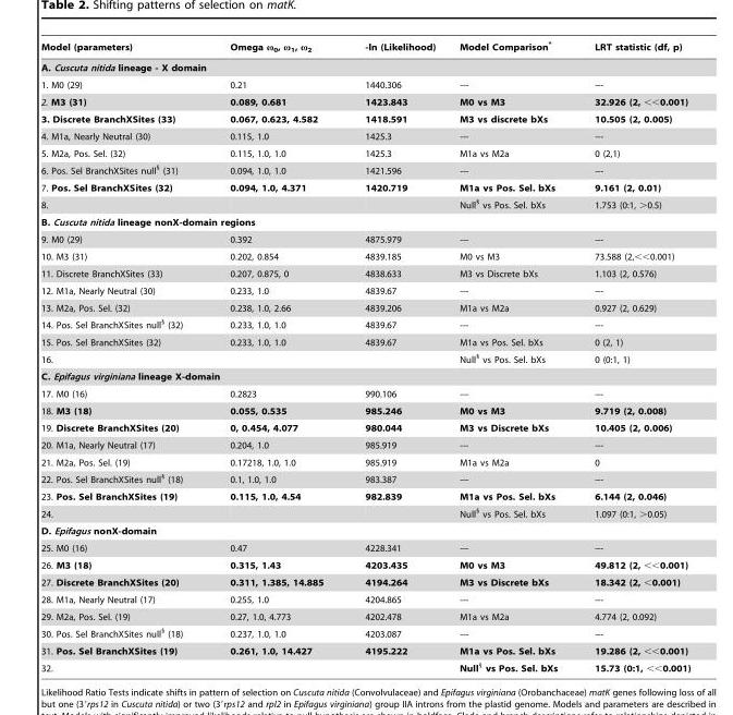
<table><thead><tr><td>Model (parameters)</td><td>Omega ω<sub>0</sub>, ω<sub>1</sub>, ω<sub>2</sub></td><td>-ln (Likelihood)</td><td>Model Comparison*</td><td>LRT statistic (df, p)</td></tr></thead><tbody><tr><td colspan="5">A. Cuscuta nitida lineage - X domain</td></tr><tr><td>1. M0 (29)</td><td>0.21</td><td>1440.306</td><td>---</td><td>---</td></tr><tr><td>2. M3 (31)</td><td>0.089, 0.681</td><td>1423.843</td><td>M0 vs M3</td><td>32.926 (2, &lt;&lt;0.001)</td></tr><tr><td>3. Discrete BranchXSites (33)</td><td>0.067, 0.623, 4.582</td><td>1418.591</td><td>M3 vs discrete bXs</td><td>10.505 (2, 0.005)</td></tr><tr><td>4. M1a, Nearly Neutral (30)</td><td>0.115, 1.0</td><td>1425.3</td><td>---</td><td>---</td></tr><tr><td>5. M2a, Pos. Sel. (32)</td><td>0.115, 1.0, 1.0</td><td>1425.3</td><td>M1a vs M2a</td><td>0 (2,1)</td></tr><tr><td>6. Pos. Sel BranchXSites null§ (31)</td><td>0.094, 1.0, 1.0</td><td>1421.596</td><td>---</td><td>---</td></tr><tr><td>7. Pos. Sel BranchXSites (32)</td><td>0.094, 1.0, 4.371</td><td>1420.719</td><td>M1a vs Pos. Sel. bXs</td><td>9.161 (2, 0.01)</td></tr><tr><td>8.</td><td></td><td></td><td>Null§ vs Pos. Sel. bXs</td><td>1.753 (0:1, &gt;0.5)</td></tr><tr><td colspan="5">B. Cuscuta nitida lineage nonX-domain regions</td></tr><tr><td>9. M0 (29)</td><td>0.392</td><td>4875.979</td><td>---</td><td>---</td></tr><tr><td>10. M3 (31)</td><td>0.202, 0.854</td><td>4839.185</td><td>M0 vs M3</td><td>73.588 (2,&lt;&lt;0.001)</td></tr><tr><td>11. Discrete BranchXSites (33)</td><td>0.207, 0.875, 0</td><td>4838.633</td><td>M3 vs Discrete bXs</td><td>1.103 (2, 0.576)</td></tr><tr><td>12. M1a, Nearly Neutral (30)</td><td>0.233, 1.0</td><td>4839.67</td><td>---</td><td>---</td></tr><tr><td>13. M2a, Pos. Sel. (32)</td><td>0.238, 1.0, 2.66</td><td>4839.206</td><td>M1a vs M2a</td><td>0.927 (2, 0.629)</td></tr><tr><td>14. Pos. Sel BranchXSites null§ (32)</td><td>0.233, 1.0, 1.0</td><td>4839.67</td><td>---</td><td>---</td></tr><tr><td>15. Pos. Sel BranchXSites (32)</td><td>0.233, 1.0, 1.0</td><td>4839.67</td><td>M1a vs Pos. Sel. bXs</td><td>0 (2, 1)</td></tr><tr><td>16.</td><td></td><td></td><td>Null§ vs Pos. Sel. bXs</td><td>0 (0:1, 1)</td></tr><tr><td colspan="5">C. Epifagus virginiana lineage X-domain</td></tr><tr><td>17. M0 (16)</td><td>0.2823</td><td>990.106</td><td>---</td><td>---</td></tr><tr><td>18. M3 (18)</td><td>0.055, 0.535</td><td>985.246</td><td>M0 vs M3</td><td>9.719 (2, 0.008)</td></tr><tr><td>19. Discrete BranchXSites (20)</td><td>0, 0.454, 4.077</td><td>980.044</td><td>M3 vs Discrete bXs</td><td>10.405 (2, 0.006)</td></tr><tr><td>20. M1a, Nearly Neutral (17)</td><td>0.204, 1.0</td><td>985.919</td><td>---</td><td>---</td></tr><tr><td>21. M2a, Pos. Sel. (19)</td><td>0.17218, 1.0, 1.0</td><td>985.919</td><td>M1a vs M2a</td><td>0</td></tr><tr><td>22. Pos. Sel BranchXSites null§ (18)</td><td>0.1, 1.0, 1.0</td><td>983.387</td><td>---</td><td>---</td></tr><tr><td>23. Pos. Sel BranchXSites (19)</td><td>0.115, 1.0, 4.54</td><td>982.839</td><td>M1a vs Pos. Sel. bXs</td><td>6.144 (2, 0.046)</td></tr><tr><td>24.</td><td></td><td></td><td>Null§ vs Pos. Sel. bXs</td><td>1.097 (0:1, &gt;0.05)</td></tr><tr><td colspan="5">D. Epifagus nonX-domain</td></tr><tr><td>25. M0 (16)</td><td>0.47</td><td>4228.341</td><td>---</td><td>---</td></tr><tr><td>26. M3 (18)</td><td>0.315, 1.43</td><td>4203.435</td><td>M0 vs M3</td><td>49.812 (2, &lt;&lt;0.001)</td></tr><tr><td>27. Discrete BranchXSites (20)</td><td>0.311, 1.385, 14.885</td><td>4194.264</td><td>M3 vs Discrete bXs</td><td>18.342 (2, &lt;0.001)</td></tr><tr><td>28. M1a, Nearly Neutral (17)</td><td>0.255, 1.0</td><td>4204.865</td><td>---</td><td>---</td></tr><tr><td>29. M2a, Pos. Sel. (19)</td><td>0.27, 1.0, 4.773</td><td>4202.478</td><td>M1a vs M2a</td><td>4.774 (2, 0.092)</td></tr><tr><td>30. Pos. Sel BranchXSites null§ (18)</td><td>0.237, 1.0, 1.0</td><td>4203.087</td><td>---</td><td>---</td></tr><tr><td>31. Pos. Sel BranchXSites (19)</td><td>0.261, 1.0, 14.427</td><td>4195.222</td><td>M1a vs Pos. Sel. bXs</td><td>19.286 (2, &lt;&lt;0.001)</td></tr><tr><td>32.</td><td></td><td></td><td>Null§ vs Pos. Sel. bXs</td><td>15.73 (0:1, &lt;&lt;0.001)</td></tr></tbody></table>